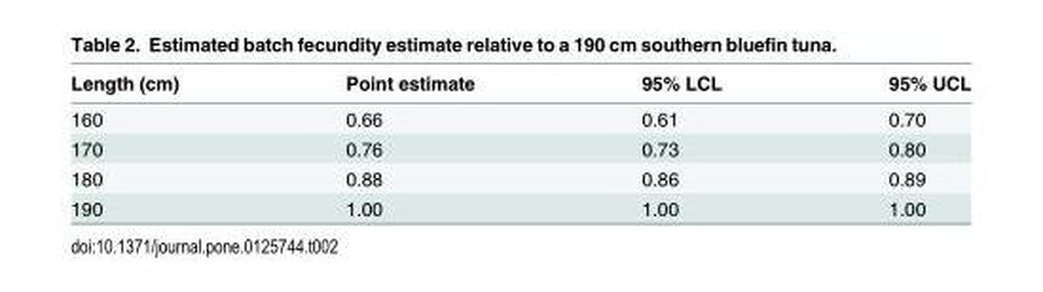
<table><thead><tr><td>Length (cm)</td><td>Point estimate</td><td>95% LCL</td><td>95% UCL</td></tr></thead><tbody><tr><td>160</td><td>0.66</td><td>0.61</td><td>0.70</td></tr><tr><td>170</td><td>0.76</td><td>0.73</td><td>0.80</td></tr><tr><td>180</td><td>0.88</td><td>0.86</td><td>0.89</td></tr><tr><td>190</td><td>1.00</td><td>1.00</td><td>1.00</td></tr></tbody></table>